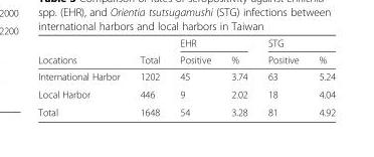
<table><thead><tr><td rowspan="2">Locations</td><td rowspan="2">Total</td><td colspan="2">EHR</td><td colspan="2">STG</td></tr><tr><td>Positive</td><td>%</td><td>Positive</td><td>%</td></tr></thead><tbody><tr><td>International Harbor</td><td>1202</td><td>45</td><td>3.74</td><td>63</td><td>5.24</td></tr><tr><td>Local Harbor</td><td>446</td><td>9</td><td>2.02</td><td>18</td><td>4.04</td></tr><tr><td>Total</td><td>1648</td><td>54</td><td>3.28</td><td>81</td><td>4.92</td></tr></tbody></table>